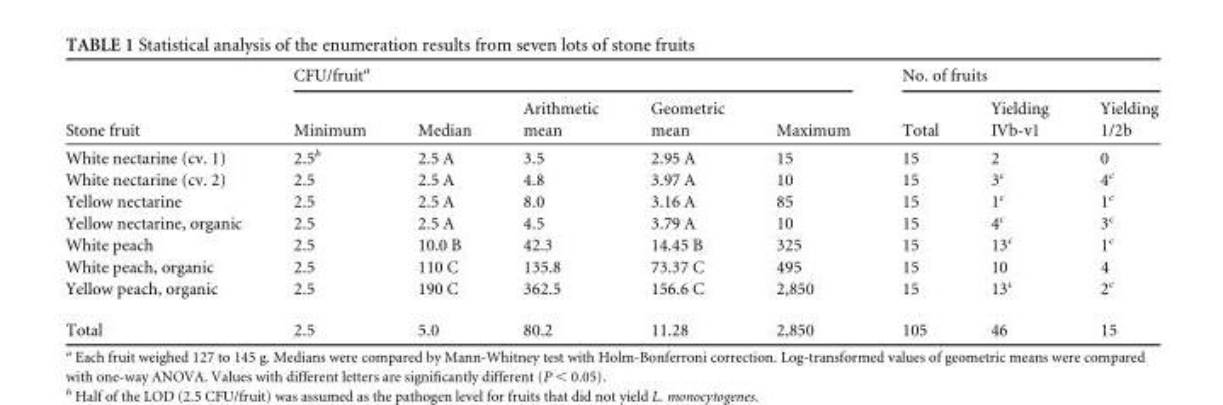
<table><thead><tr><td rowspan="2">Stone fruit</td><td colspan="5">CFU/fruit<sup>a</sup></td><td colspan="3">No. of fruits</td></tr><tr><td>Minimum</td><td>Median</td><td>Arithmetic mean</td><td>Geometric mean</td><td>Maximum</td><td>Total</td><td>Yielding IVb-v1</td><td>Yielding 1/2b</td></tr></thead><tbody><tr><td>White nectarine (cv. 1)</td><td>2.5<sup>b</sup></td><td>2.5 A</td><td>3.5</td><td>2.95 A</td><td>15</td><td>15</td><td>2</td><td>0</td></tr><tr><td>White nectarine (cv. 2)</td><td>2.5</td><td>2.5 A</td><td>4.8</td><td>3.97 A</td><td>10</td><td>15</td><td>3<sup>c</sup></td><td>4<sup>c</sup></td></tr><tr><td>Yellow nectarine</td><td>2.5</td><td>2.5 A</td><td>8.0</td><td>3.16 A</td><td>85</td><td>15</td><td>1<sup>c</sup></td><td>1<sup>c</sup></td></tr><tr><td>Yellow nectarine, organic</td><td>2.5</td><td>2.5 A</td><td>4.5</td><td>3.79 A</td><td>10</td><td>15</td><td>4<sup>c</sup></td><td>3<sup>c</sup></td></tr><tr><td>White peach</td><td>2.5</td><td>10.0 B</td><td>42.3</td><td>14.45 B</td><td>325</td><td>15</td><td>13<sup>c</sup></td><td>1<sup>c</sup></td></tr><tr><td>White peach, organic</td><td>2.5</td><td>110 C</td><td>135.8</td><td>73.37 C</td><td>495</td><td>15</td><td>10</td><td>4</td></tr><tr><td>Yellow peach, organic</td><td>2.5</td><td>190 C</td><td>362.5</td><td>156.6 C</td><td>2,850</td><td>15</td><td>13<sup>c</sup></td><td>2<sup>c</sup></td></tr><tr><td>Total</td><td>2.5</td><td>5.0</td><td>80.2</td><td>11.28</td><td>2,850</td><td>105</td><td>46</td><td>15</td></tr></tbody></table>